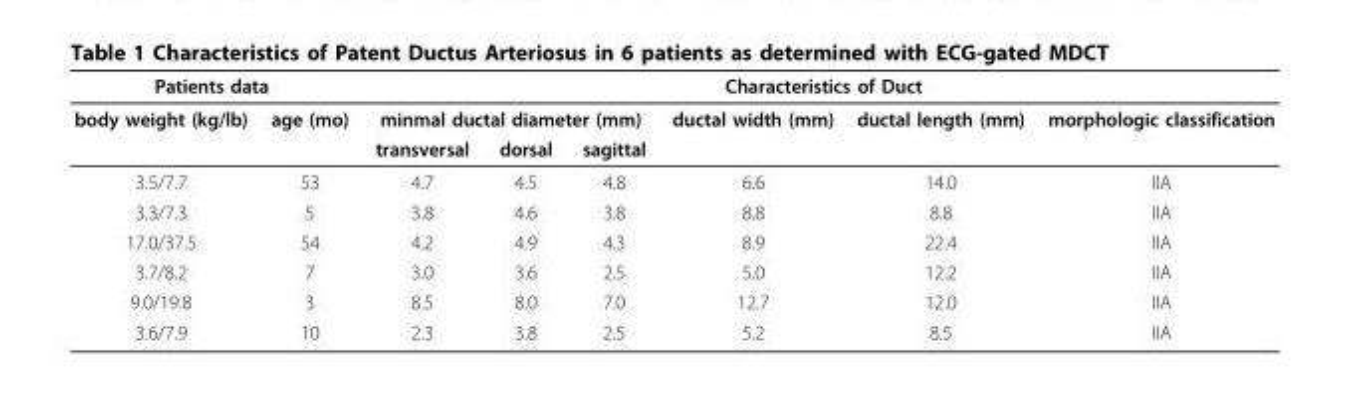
<table><thead><tr><td colspan="2">Patients data</td><td colspan="6">Characteristics of Duct</td></tr><tr><td rowspan="2">body weight (kg/lb)</td><td rowspan="2">age (mo)</td><td colspan="3">minmal ductal diameter (mm)</td><td rowspan="2">ductal width (mm)</td><td rowspan="2">ductal length (mm)</td><td rowspan="2">morphologic classification</td></tr><tr><td>transversal</td><td>dorsal</td><td>sagittal</td></tr></thead><tbody><tr><td>3.5/7.7</td><td>53</td><td>4.7</td><td>4.5</td><td>4.8</td><td>6.6</td><td>14.0</td><td>IIA</td></tr><tr><td>3.3/7.3</td><td>5</td><td>3.8</td><td>4.6</td><td>3.8</td><td>8.8</td><td>8.8</td><td>IIA</td></tr><tr><td>17.0/37.5</td><td>54</td><td>4.2</td><td>4.9</td><td>4.3</td><td>8.9</td><td>22.4</td><td>IIA</td></tr><tr><td>3.7/8.2</td><td>7</td><td>3.0</td><td>3.6</td><td>2.5</td><td>5.0</td><td>12.2</td><td>IIA</td></tr><tr><td>9.0/19.8</td><td>3</td><td>8.5</td><td>8.0</td><td>7.0</td><td>12.7</td><td>12.0</td><td>IIA</td></tr><tr><td>3.6/7.9</td><td>10</td><td>2.3</td><td>3.8</td><td>2.5</td><td>5.2</td><td>8.5</td><td>IIA</td></tr></tbody></table>